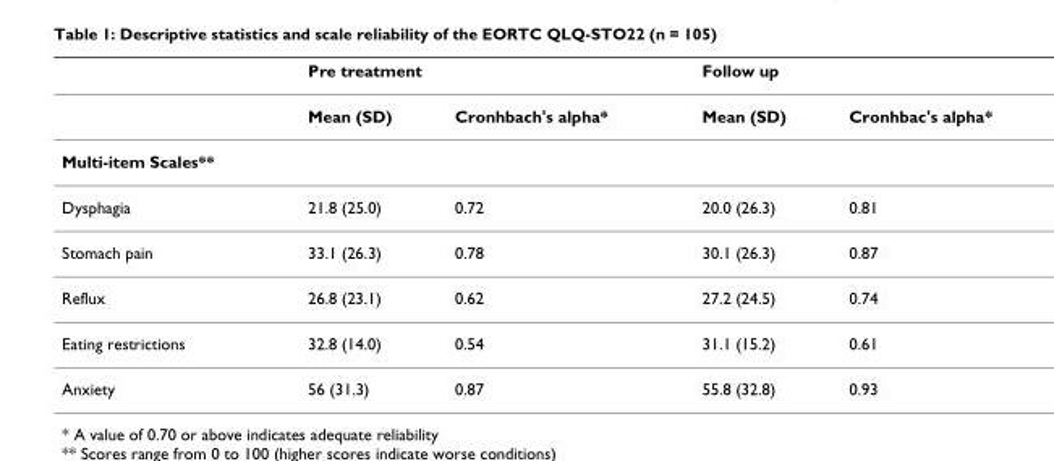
<table><thead><tr><td rowspan="2"></td><td colspan="2">Pre treatment</td><td colspan="2">Follow up</td></tr><tr><td>Mean (SD)</td><td>Cronhbach&#x27;s alpha*</td><td>Mean (SD)</td><td>Cronhbac&#x27;s alpha*</td></tr></thead><tbody><tr><td colspan="5">Multi-item Scales**</td></tr><tr><td>Dysphagia</td><td>21.8 (25.0)</td><td>0.72</td><td>20.0 (26.3)</td><td>0.81</td></tr><tr><td>Stomach pain</td><td>33.1 (26.3)</td><td>0.78</td><td>30.1 (26.3)</td><td>0.87</td></tr><tr><td>Reflux</td><td>26.8 (23.1)</td><td>0.62</td><td>27.2 (24.5)</td><td>0.74</td></tr><tr><td>Eating restrictions</td><td>32.8 (14.0)</td><td>0.54</td><td>31.1 (15.2)</td><td>0.61</td></tr><tr><td>Anxiety</td><td>56 (31.3)</td><td>0.87</td><td>55.8 (32.8)</td><td>0.93</td></tr></tbody></table>